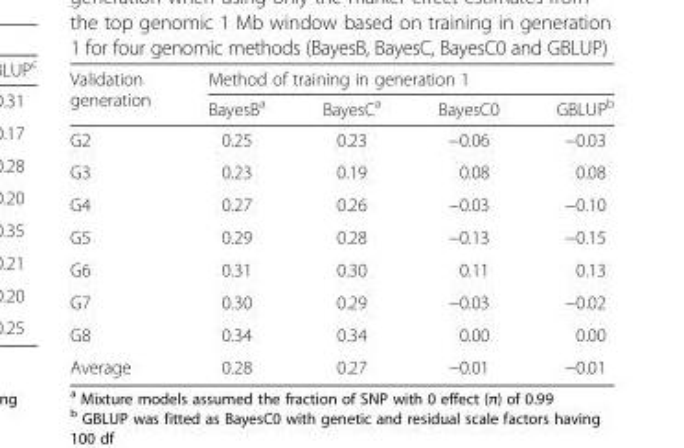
<table><thead><tr><td rowspan="2">Validation generation</td><td colspan="4">Method of training in generation 1</td></tr><tr><td>BayesB<sup>a</sup></td><td>BayesC<sup>a</sup></td><td>BayesC0</td><td>GBLUP<sup>b</sup></td></tr></thead><tbody><tr><td>G2</td><td>0.25</td><td>0.23</td><td>−0.06</td><td>−0.03</td></tr><tr><td>G3</td><td>0.23</td><td>0.19</td><td>0.08</td><td>0.08</td></tr><tr><td>G4</td><td>0.27</td><td>0.26</td><td>−0.03</td><td>−0.10</td></tr><tr><td>G5</td><td>0.29</td><td>0.28</td><td>−0.13</td><td>−0.15</td></tr><tr><td>G6</td><td>0.31</td><td>0.30</td><td>0.11</td><td>0.13</td></tr><tr><td>G7</td><td>0.30</td><td>0.29</td><td>−0.03</td><td>−0.02</td></tr><tr><td>G8</td><td>0.34</td><td>0.34</td><td>0.00</td><td>0.00</td></tr><tr><td>Average</td><td>0.28</td><td>0.27</td><td>−0.01</td><td>−0.01</td></tr></tbody></table>